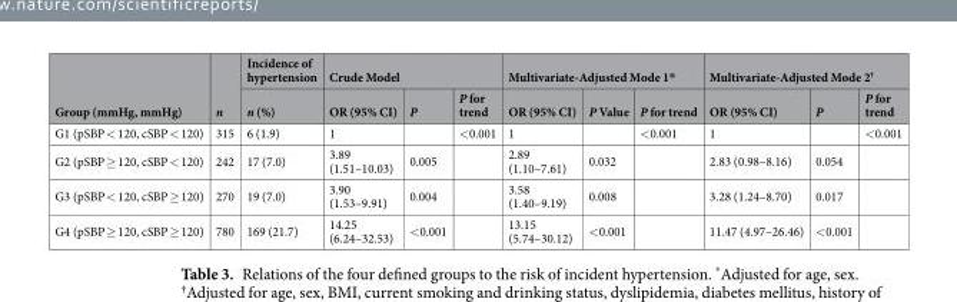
<table><thead><tr><td rowspan="2">Group (mmHg, mmHg)</td><td rowspan="2">n</td><td rowspan="2">Incidence of hypertension n (%)</td><td colspan="3">Crude Model</td><td colspan="3">Multivariate-Adjusted Mode 1*</td><td colspan="3">Multivariate-Adjusted Mode 2<sup>†</sup></td></tr><tr><td>OR (95% CI)</td><td>P</td><td>P for trend</td><td>OR (95% CI)</td><td>P Value</td><td>P for trend</td><td>OR (95% CI)</td><td>P</td><td>P for trend</td></tr></thead><tbody><tr><td>G1 (pSBP &lt; 120, cSBP &lt; 120)</td><td>315</td><td>6 (1.9)</td><td>1</td><td></td><td>&lt;0.001</td><td>1</td><td></td><td>&lt;0.001</td><td>1</td><td></td><td>&lt;0.001</td></tr><tr><td>G2 (pSBP ≥ 120, cSBP &lt; 120)</td><td>242</td><td>17 (7.0)</td><td>3.89 (1.51–10.03)</td><td>0.005</td><td></td><td>2.89 (1.10–7.61)</td><td>0.032</td><td></td><td>2.83 (0.98–8.16)</td><td>0.054</td><td></td></tr><tr><td>G3 (pSBP &lt; 120, cSBP ≥ 120)</td><td>270</td><td>19 (7.0)</td><td>3.90 (1.53–9.91)</td><td>0.004</td><td></td><td>3.58 (1.40–9.19)</td><td>0.008</td><td></td><td>3.28 (1.24–8.70)</td><td>0.017</td><td></td></tr><tr><td>G4 (pSBP ≥ 120, cSBP ≥ 120)</td><td>780</td><td>169 (21.7)</td><td>14.25 (6.24–32.53)</td><td>&lt;0.001</td><td></td><td>13.15 (5.74–30.12)</td><td>&lt;0.001</td><td></td><td>11.47 (4.97–26.46)</td><td>&lt;0.001</td><td></td></tr></tbody></table>